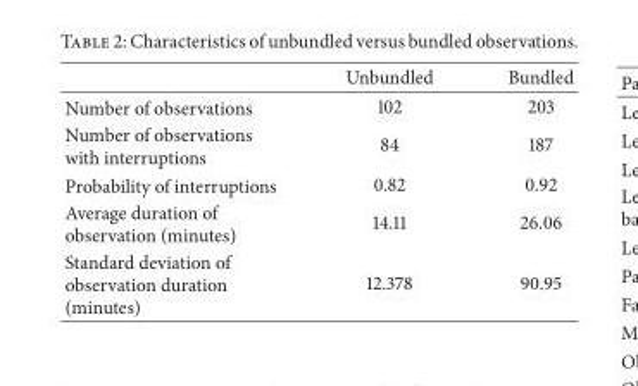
<table><thead><tr><td></td><td>Unbundled</td><td>Bundled</td></tr></thead><tbody><tr><td>Number of observations</td><td>102</td><td>203</td></tr><tr><td>Number of observations with interruptions</td><td>84</td><td>187</td></tr><tr><td>Probability of interruptions</td><td>0.82</td><td>0.92</td></tr><tr><td>Average duration of observation (minutes)</td><td>14.11</td><td>26.06</td></tr><tr><td>Standard deviation of observation duration (minutes)</td><td>12.378</td><td>90.95</td></tr></tbody></table>